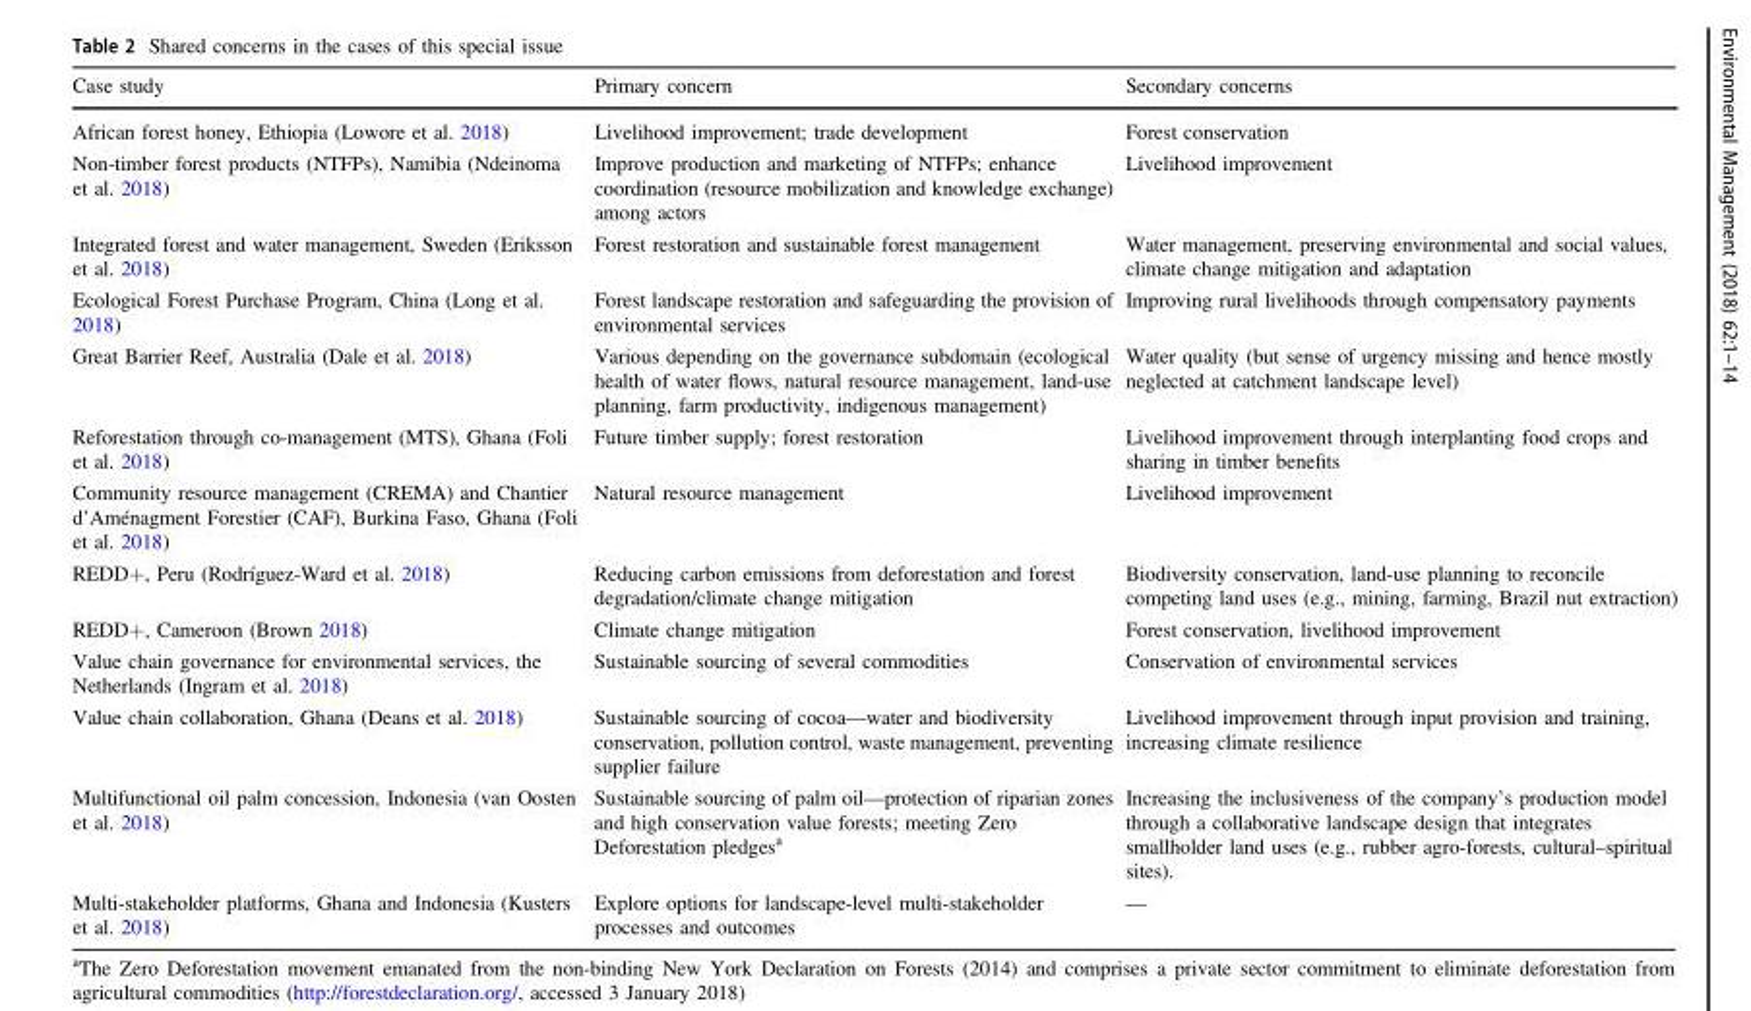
<table><thead><tr><td>Case study</td><td>Primary concern</td><td>Secondary concerns</td></tr></thead><tbody><tr><td>African forest honey, Ethiopia (Lowore et al. 2018)</td><td>Livelihood improvement; trade development</td><td>Forest conservation</td></tr><tr><td>Non-timber forest products (NTFPs), Namibia (Ndeinoma et al. 2018)</td><td>Improve production and marketing of NTFPs; enhance coordination (resource mobilization and knowledge exchange) among actors</td><td>Livelihood improvement</td></tr><tr><td>Integrated forest and water management, Sweden (Eriksson et al. 2018)</td><td>Forest restoration and sustainable forest management</td><td>Water management, preserving environmental and social values, climate change mitigation and adaptation</td></tr><tr><td>Ecological Forest Purchase Program, China (Long et al. 2018)</td><td>Forest landscape restoration and safeguarding the provision of environmental services</td><td>Improving rural livelihoods through compensatory payments</td></tr><tr><td>Great Barrier Reef, Australia (Dale et al. 2018)</td><td>Various depending on the governance subdomain (ecological health of water flows, natural resource management, land-use planning, farm productivity, indigenous management)</td><td>Water quality (but sense of urgency missing and hence mostly neglected at catchment landscape level)</td></tr><tr><td>Reforestation through co-management (MTS), Ghana (Foli et al. 2018)</td><td>Future timber supply; forest restoration</td><td>Livelihood improvement through interplanting food crops and sharing in timber benefits</td></tr><tr><td>Community resource management (CREMA) and Chantier d’Aménagment Forestier (CAF), Burkina Faso, Ghana (Foli et al. 2018)</td><td>Natural resource management</td><td>Livelihood improvement</td></tr><tr><td>REDD+, Peru (Rodríguez-Ward et al. 2018)</td><td>Reducing carbon emissions from deforestation and forest degradation/climate change mitigation</td><td>Biodiversity conservation, land-use planning to reconcile competing land uses (e.g., mining, farming, Brazil nut extraction)</td></tr><tr><td>REDD+, Cameroon (Brown 2018)</td><td>Climate change mitigation</td><td>Forest conservation, livelihood improvement</td></tr><tr><td>Value chain governance for environmental services, the Netherlands (Ingram et al. 2018)</td><td>Sustainable sourcing of several commodities</td><td>Conservation of environmental services</td></tr><tr><td>Value chain collaboration, Ghana (Deans et al. 2018)</td><td>Sustainable sourcing of cocoa—water and biodiversity conservation, pollution control, waste management, preventing supplier failure</td><td>Livelihood improvement through input provision and training, increasing climate resilience</td></tr><tr><td>Multifunctional oil palm concession, Indonesia (van Oosten et al. 2018)</td><td>Sustainable sourcing of palm oil—protection of riparian zones and high conservation value forests; meeting Zero Deforestation pledges<sup>a</sup></td><td>Increasing the inclusiveness of the company’s production model through a collaborative landscape design that integrates smallholder land uses (e.g., rubber agro-forests, cultural–spiritual sites).</td></tr><tr><td>Multi-stakeholder platforms, Ghana and Indonesia (Kusters et al. 2018)</td><td>Explore options for landscape-level multi-stakeholder processes and outcomes</td><td>—</td></tr></tbody></table>